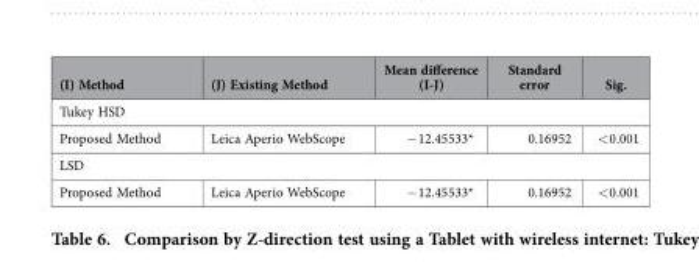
<table><thead><tr><td>(I) Method</td><td>(J) Existing Method</td><td>Mean difference (I-J)</td><td>Standard error</td><td>Sig.</td></tr></thead><tbody><tr><td colspan="5">Tukey HSD</td></tr><tr><td>Proposed Method</td><td>Leica Aperio WebScope</td><td>− 12.45533*</td><td>0.16952</td><td>&lt; 0.001</td></tr><tr><td colspan="5">LSD</td></tr><tr><td>Proposed Method</td><td>Leica Aperio WebScope</td><td>− 12.45533*</td><td>0.16952</td><td>&lt; 0.001</td></tr></tbody></table>